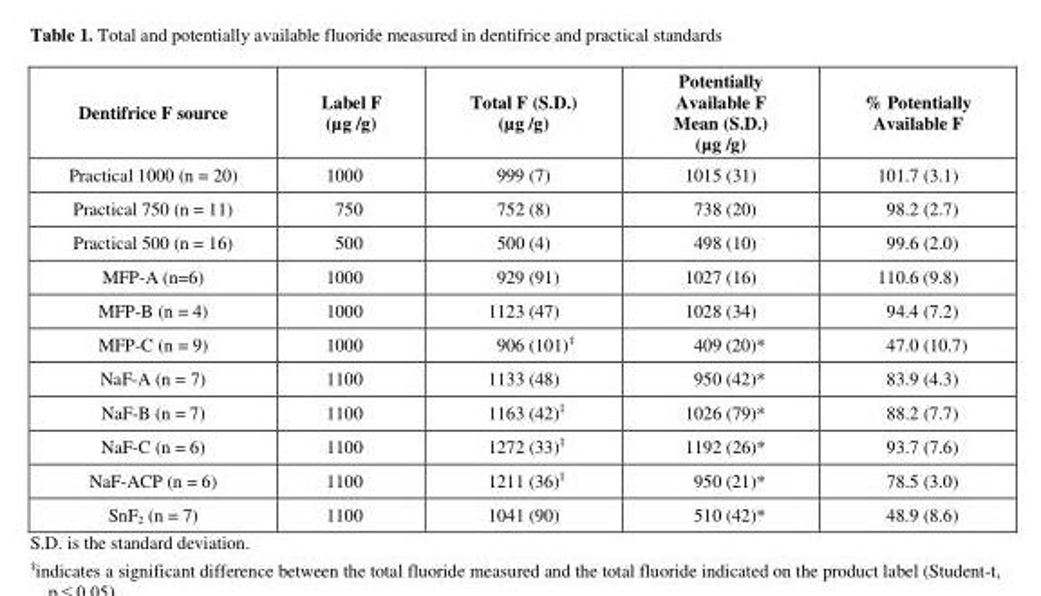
<table><thead><tr><td>Dentifrice F source</td><td>Label F (µg /g)</td><td>Total F (S.D.) (µg /g)</td><td>Potentially Available F Mean (S.D.) (µg /g)</td><td>% Potentially Available F</td></tr></thead><tbody><tr><td>Practical 1000 (n = 20)</td><td>1000</td><td>999 (7)</td><td>1015 (31)</td><td>101.7 (3.1)</td></tr><tr><td>Practical 750 (n = 11)</td><td>750</td><td>752 (8)</td><td>738 (20)</td><td>98.2 (2.7)</td></tr><tr><td>Practical 500 (n = 16)</td><td>500</td><td>500 (4)</td><td>498 (10)</td><td>99.6 (2.0)</td></tr><tr><td>MFP-A (n=6)</td><td>1000</td><td>929 (91)</td><td>1027 (16)</td><td>110.6 (9.8)</td></tr><tr><td>MFP-B (n = 4)</td><td>1000</td><td>1123 (47)</td><td>1028 (34)</td><td>94.4 (7.2)</td></tr><tr><td>MFP-C (n = 9)</td><td>1000</td><td>906 (101)‡</td><td>409 (20)*</td><td>47.0 (10.7)</td></tr><tr><td>NaF-A (n = 7)</td><td>1100</td><td>1133 (48)</td><td>950 (42)*</td><td>83.9 (4.3)</td></tr><tr><td>NaF-B (n = 7)</td><td>1100</td><td>1163 (42)‡</td><td>1026 (79)*</td><td>88.2 (7.7)</td></tr><tr><td>NaF-C (n = 6)</td><td>1100</td><td>1272 (33)‡</td><td>1192 (26)*</td><td>93.7 (7.6)</td></tr><tr><td>NaF-ACP (n = 6)</td><td>1100</td><td>1211 (36)‡</td><td>950 (21)*</td><td>78.5 (3.0)</td></tr><tr><td>SnF<sub>2</sub> (n = 7)</td><td>1100</td><td>1041 (90)</td><td>510 (42)*</td><td>48.9 (8.6)</td></tr></tbody></table>